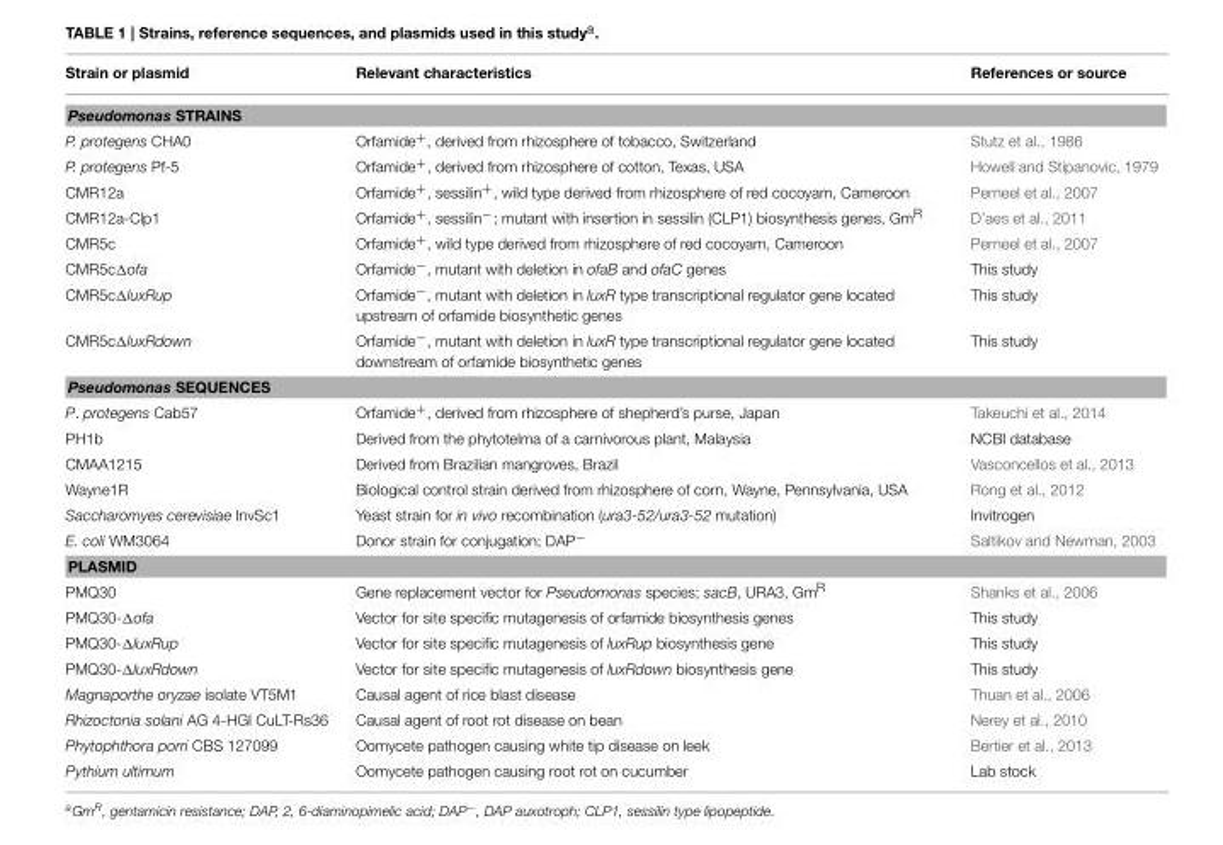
<table><thead><tr><td>Strain or plasmid</td><td>Relevant characteristics</td><td>References or source</td></tr></thead><tbody><tr><td colspan="3">Pseudomonas STRAINS</td></tr><tr><td>P. protegens CHA0</td><td>Orfamide<sup>+</sup>, derived from rhizosphere of tobacco, Switzerland</td><td>Stutz et al., 1986</td></tr><tr><td>P. protegens Pf-5</td><td>Orfamide<sup>+</sup>, derived from rhizosphere of cotton, Texas, USA</td><td>Howell and Stipanovic, 1979</td></tr><tr><td>CMR12a</td><td>Orfamide<sup>+</sup>, sessilin<sup>+</sup>, wild type derived from rhizosphere of red cocoyam, Cameroon</td><td>Perneel et al., 2007</td></tr><tr><td>CMR12a-Clp1</td><td>Orfamide<sup>+</sup>, sessilin<sup>−</sup>; mutant with insertion in sessilin (CLP1) biosynthesis genes, Gm<sup>R</sup></td><td>D’aes et al., 2011</td></tr><tr><td>CMR5c</td><td>Orfamide<sup>+</sup>, wild type derived from rhizosphere of red cocoyam, Cameroon</td><td>Perneel et al., 2007</td></tr><tr><td>CMR5cΔofa</td><td>Orfamide<sup>−</sup>, mutant with deletion in ofaB and ofaC genes</td><td>This study</td></tr><tr><td>CMR5cΔluxRup</td><td>Orfamide<sup>−</sup>, mutant with deletion in luxR type transcriptional regulator gene located upstream of orfamide biosynthetic genes</td><td>This study</td></tr><tr><td>CMR5cΔluxRdown</td><td>Orfamide<sup>−</sup>, mutant with deletion in luxR type transcriptional regulator gene located downstream of orfamide biosynthetic genes</td><td>This study</td></tr><tr><td colspan="3">Pseudomonas SEQUENCES</td></tr><tr><td>P. protegens Cab57</td><td>Orfamide<sup>+</sup>, derived from rhizosphere of shepherd’s purse, Japan</td><td>Takeuchi et al., 2014</td></tr><tr><td>PH1b</td><td>Derived from the phytotelma of a carnivorous plant, Malaysia</td><td>NCBI database</td></tr><tr><td>CMAA1215</td><td>Derived from Brazilian mangroves, Brazil</td><td>Vasconcellos et al., 2013</td></tr><tr><td>Wayne1R</td><td>Biological control strain derived from rhizosphere of corn, Wayne, Pennsylvania, USA</td><td>Rong et al., 2012</td></tr><tr><td>Saccharomyes cerevisiae InvSc1</td><td>Yeast strain for in vivo recombination (ura3-52/ura3-52 mutation)</td><td>Invitrogen</td></tr><tr><td>E. coli WM3064</td><td>Donor strain for conjugation; DAP<sup>−</sup></td><td>Saltikov and Newman, 2003</td></tr><tr><td colspan="3">PLASMID</td></tr><tr><td>PMQ30</td><td>Gene replacement vector for Pseudomonas species; sacB, URA3, Gm<sup>R</sup></td><td>Shanks et al., 2006</td></tr><tr><td>PMQ30-Δofa</td><td>Vector for site specific mutagenesis of orfamide biosynthesis genes</td><td>This study</td></tr><tr><td>PMQ30-ΔluxRup</td><td>Vector for site specific mutagenesis of luxRup biosynthesis gene</td><td>This study</td></tr><tr><td>PMQ30-ΔluxRdown</td><td>Vector for site specific mutagenesis of luxRdown biosynthesis gene</td><td>This study</td></tr><tr><td>Magnaporthe oryzae isolate VT5M1</td><td>Causal agent of rice blast disease</td><td>Thuan et al., 2006</td></tr><tr><td>Rhizoctonia solani AG 4-HGI CuLT-Rs36</td><td>Causal agent of root rot disease on bean</td><td>Nerey et al., 2010</td></tr><tr><td>Phytophthora porri CBS 127099</td><td>Oomycete pathogen causing white tip disease on leek</td><td>Bertier et al., 2013</td></tr><tr><td>Pythium ultimum</td><td>Oomycete pathogen causing root rot on cucumber</td><td>Lab stock</td></tr></tbody></table>